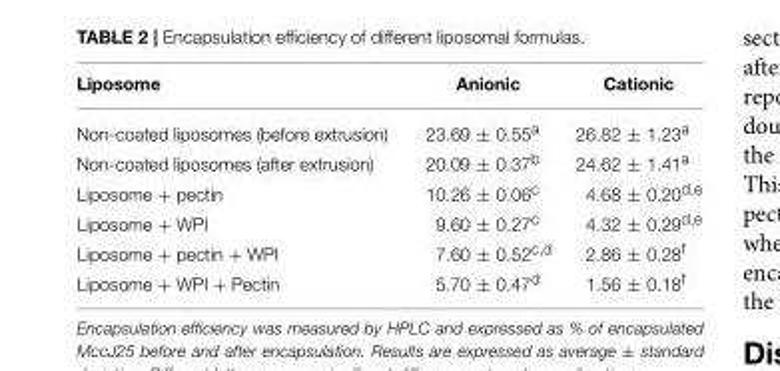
<table><thead><tr><td>Liposome</td><td>Anionic</td><td>Cationic</td></tr></thead><tbody><tr><td>Non-coated liposomes (before extrusion)</td><td>23.69 ± 0.55<sup>a</sup></td><td>26.82 ± 1.23<sup>a</sup></td></tr><tr><td>Non-coated liposomes (after extrusion)</td><td>20.09 ± 0.37<sup>b</sup></td><td>24.62 ± 1.41<sup>a</sup></td></tr><tr><td>Liposome + pectin</td><td>10.26 ± 0.06<sup>c</sup></td><td>4.68 ± 0.20<sup>d,e</sup></td></tr><tr><td>Liposome + WPI</td><td>9.60 ± 0.27<sup>c</sup></td><td>4.32 ± 0.29<sup>d,e</sup></td></tr><tr><td>Liposome + pectin + WPI</td><td>7.60 ± 0.52<sup>c,d</sup></td><td>2.86 ± 0.28<sup>f</sup></td></tr><tr><td>Liposome + WPI + Pectin</td><td>5.70 ± 0.47<sup>d</sup></td><td>1.56 ± 0.18<sup>f</sup></td></tr></tbody></table>